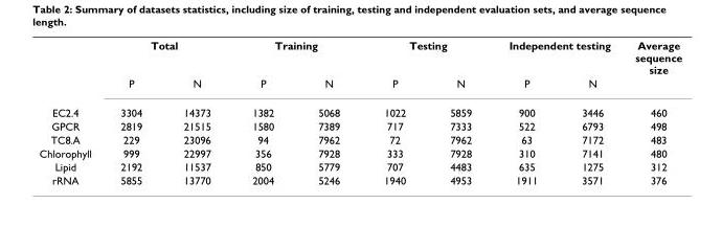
<table><thead><tr><td rowspan="2"></td><td colspan="2">Total</td><td colspan="2">Training</td><td colspan="2">Testing</td><td colspan="2">Independent testing</td><td rowspan="2">Average sequence size</td></tr><tr><td>P</td><td>N</td><td>P</td><td>N</td><td>P</td><td>N</td><td>P</td><td>N</td></tr></thead><tbody><tr><td>EC2.4</td><td>3304</td><td>14373</td><td>1382</td><td>5068</td><td>1022</td><td>5859</td><td>900</td><td>3446</td><td>460</td></tr><tr><td>GPCR</td><td>2819</td><td>21515</td><td>1580</td><td>7389</td><td>717</td><td>7333</td><td>522</td><td>6793</td><td>498</td></tr><tr><td>TC8.A</td><td>229</td><td>23096</td><td>94</td><td>7962</td><td>72</td><td>7962</td><td>63</td><td>7172</td><td>483</td></tr><tr><td>Chlorophyll</td><td>999</td><td>22997</td><td>356</td><td>7928</td><td>333</td><td>7928</td><td>310</td><td>7141</td><td>480</td></tr><tr><td>Lipid</td><td>2192</td><td>11537</td><td>850</td><td>5779</td><td>707</td><td>4483</td><td>635</td><td>1275</td><td>312</td></tr><tr><td>rRNA</td><td>5855</td><td>13770</td><td>2004</td><td>5246</td><td>1940</td><td>4953</td><td>1911</td><td>3571</td><td>376</td></tr></tbody></table>